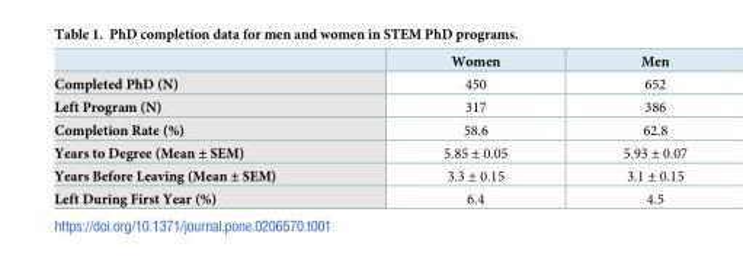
<table><thead><tr><td></td><td>Women</td><td>Men</td></tr></thead><tbody><tr><td>Completed PhD (N)</td><td>450</td><td>652</td></tr><tr><td>Left Program (N)</td><td>317</td><td>386</td></tr><tr><td>Completion Rate (%)</td><td>58.6</td><td>62.8</td></tr><tr><td>Years to Degree (Mean ± SEM)</td><td>5.85 ± 0.05</td><td>5.93 ± 0.07</td></tr><tr><td>Years Before Leaving (Mean ± SEM)</td><td>3.3 ± 0.15</td><td>3.1 ± 0.15</td></tr><tr><td>Left During First Year (%)</td><td>6.4</td><td>4.5</td></tr></tbody></table>